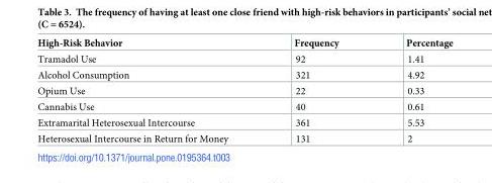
<table><thead><tr><td>High-Risk Behavior</td><td>Frequency</td><td>Percentage</td></tr></thead><tbody><tr><td>Tramadol Use</td><td>92</td><td>1.41</td></tr><tr><td>Alcohol Consumption</td><td>321</td><td>4.92</td></tr><tr><td>Opium Use</td><td>22</td><td>0.33</td></tr><tr><td>Cannabis Use</td><td>40</td><td>0.61</td></tr><tr><td>Extramarital Heterosexual Intercourse</td><td>361</td><td>5.53</td></tr><tr><td>Heterosexual Intercourse in Return for Money</td><td>131</td><td>2</td></tr></tbody></table>